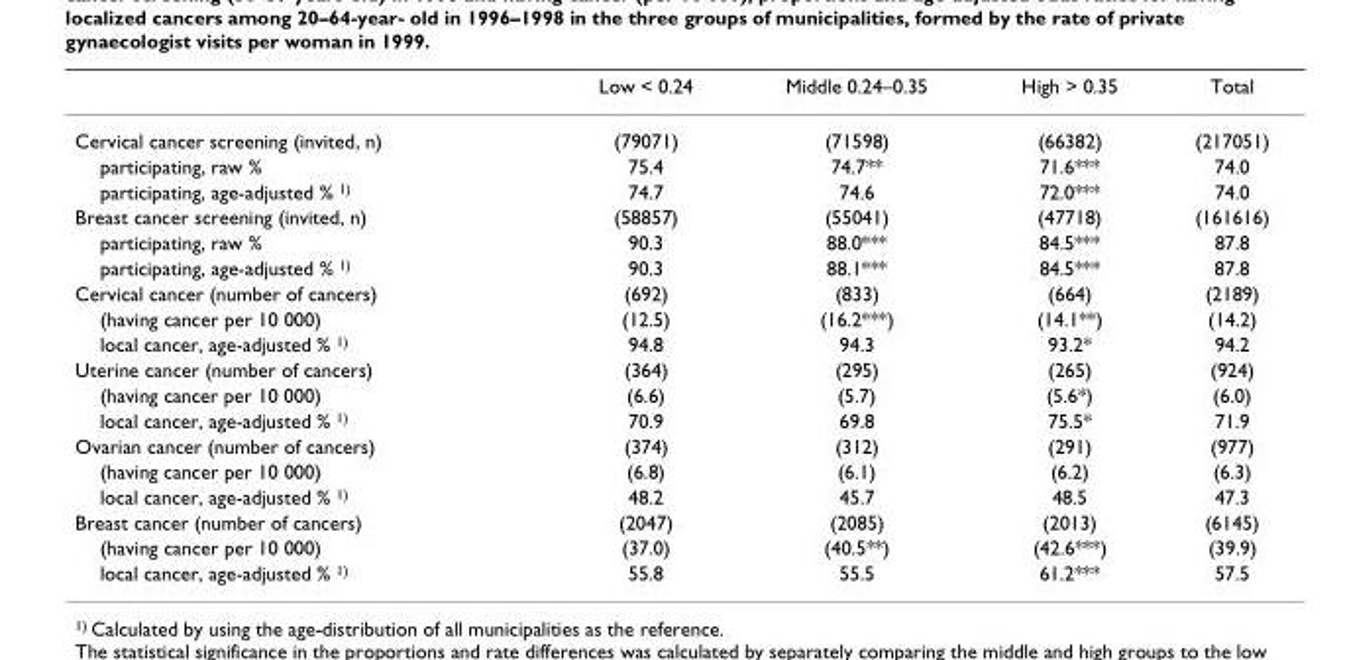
<table><thead><tr><td></td><td>Low &lt; 0.24</td><td>Middle 0.24–0.35</td><td>High &gt; 0.35</td><td>Total</td></tr></thead><tbody><tr><td>Cervical cancer screening (invited, n)</td><td>(79071)</td><td>(71598)</td><td>(66382)</td><td>(217051)</td></tr><tr><td>participating, raw %</td><td>75.4</td><td>74.7**</td><td>71.6***</td><td>74.0</td></tr><tr><td>participating, age-adjusted % 1)</td><td>74.7</td><td>74.6</td><td>72.0***</td><td>74.0</td></tr><tr><td>Breast cancer screening (invited, n)</td><td>(58857)</td><td>(55041)</td><td>(47718)</td><td>(161616)</td></tr><tr><td>participating, raw %</td><td>90.3</td><td>88.0***</td><td>84.5***</td><td>87.8</td></tr><tr><td>participating, age-adjusted % 1)</td><td>90.3</td><td>88.1***</td><td>84.5***</td><td>87.8</td></tr><tr><td>Cervical cancer (number of cancers)</td><td>(692)</td><td>(833)</td><td>(664)</td><td>(2189)</td></tr><tr><td>(having cancer per 10 000)</td><td>(12.5)</td><td>(16.2***)</td><td>(14.1**)</td><td>(14.2)</td></tr><tr><td>local cancer, age-adjusted % 1)</td><td>94.8</td><td>94.3</td><td>93.2*</td><td>94.2</td></tr><tr><td>Uterine cancer (number of cancers)</td><td>(364)</td><td>(295)</td><td>(265)</td><td>(924)</td></tr><tr><td>(having cancer per 10 000)</td><td>(6.6)</td><td>(5.7)</td><td>(5.6*)</td><td>(6.0)</td></tr><tr><td>local cancer, age-adjusted % 1)</td><td>70.9</td><td>69.8</td><td>75.5*</td><td>71.9</td></tr><tr><td>Ovarian cancer (number of cancers)</td><td>(374)</td><td>(312)</td><td>(291)</td><td>(977)</td></tr><tr><td>(having cancer per 10 000)</td><td>(6.8)</td><td>(6.1)</td><td>(6.2)</td><td>(6.3)</td></tr><tr><td>local cancer, age-adjusted % 1)</td><td>48.2</td><td>45.7</td><td>48.5</td><td>47.3</td></tr><tr><td>Breast cancer (number of cancers)</td><td>(2047)</td><td>(2085)</td><td>(2013)</td><td>(6145)</td></tr><tr><td>(having cancer per 10 000)</td><td>(37.0)</td><td>(40.5**)</td><td>(42.6***)</td><td>(39.9)</td></tr><tr><td>local cancer, age-adjusted % 1)</td><td>55.8</td><td>55.5</td><td>61.2***</td><td>57.5</td></tr></tbody></table>